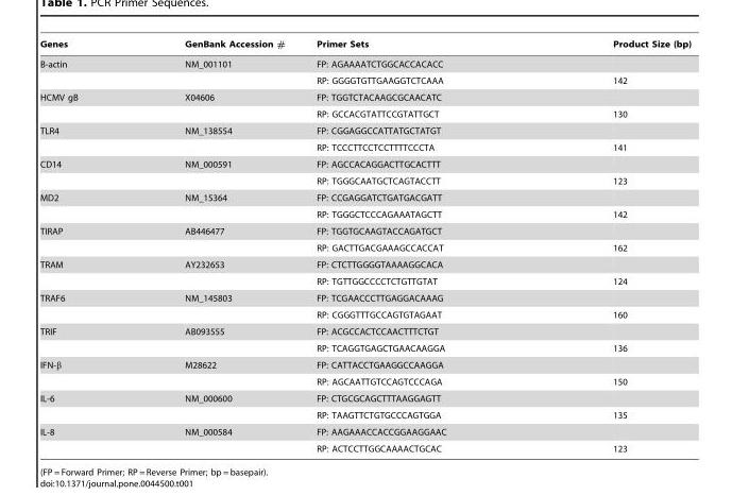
<table><thead><tr><td>Genes</td><td>GenBank Accession #</td><td>Primer Sets</td><td>Product Size (bp)</td></tr></thead><tbody><tr><td rowspan="2">B-actin</td><td>NM_001101</td><td>FP: AGAAAATCTGGCACCACACC</td><td></td></tr><tr><td></td><td>RP: GGGGTGTTGAAGGTCTCAAA</td><td>142</td></tr><tr><td rowspan="2">HCMV gB</td><td>X04606</td><td>FP: TGGTCTACAAGCGCAACATC</td><td></td></tr><tr><td></td><td>RP: GCCACGTATTCCGTATTGCT</td><td>130</td></tr><tr><td rowspan="2">TLR4</td><td>NM_138554</td><td>FP: CGGAGGCCATTATGCTATGT</td><td></td></tr><tr><td></td><td>RP: TCCCTTCCTCCTTTTCCCTA</td><td>141</td></tr><tr><td rowspan="2">CD14</td><td>NM_000591</td><td>FP: AGCCACAGGACTTGCACTTT</td><td></td></tr><tr><td></td><td>RP: TGGGCAATGCTCAGTACCTT</td><td>123</td></tr><tr><td rowspan="2">MD2</td><td>NM_15364</td><td>FP: CCGAGGATCTGATGACGATT</td><td></td></tr><tr><td></td><td>RP: TGGGCTCCCAGAAATAGCTT</td><td>142</td></tr><tr><td rowspan="2">TIRAP</td><td>AB446477</td><td>FP: TGGTGCAAGTACCAGATGCT</td><td></td></tr><tr><td></td><td>RP: GACTTGACGAAAGCCACCAT</td><td>162</td></tr><tr><td rowspan="2">TRAM</td><td>AY232653</td><td>FP: CTCTTGGGGTAAAAGGCACA</td><td></td></tr><tr><td></td><td>RP: TGTTGGCCCCTCTGTTGTAT</td><td>124</td></tr><tr><td rowspan="2">TRAF6</td><td>NM_145803</td><td>FP: TCGAACCCTTGAGGACAAAG</td><td></td></tr><tr><td></td><td>RP: CGGGTTTGCCAGTGTAGAAT</td><td>160</td></tr><tr><td rowspan="2">TRIF</td><td>AB093555</td><td>FP: ACGCCACTCCAACTTTCTGT</td><td></td></tr><tr><td></td><td>RP: TCAGGTGAGCTGAACAAGGA</td><td>136</td></tr><tr><td rowspan="2">IFN-β</td><td>M28622</td><td>FP: CATTACCTGAAGGCCAAGGA</td><td></td></tr><tr><td></td><td>RP: AGCAATTGTCCAGTCCCAGA</td><td>150</td></tr><tr><td rowspan="2">IL-6</td><td>NM_000600</td><td>FP: CTGCGCAGCTTTAAGGAGTT</td><td></td></tr><tr><td></td><td>RP: TAAGTTCTGTGCCCAGTGGA</td><td>135</td></tr><tr><td rowspan="2">IL-8</td><td>NM_000584</td><td>FP: AAGAAACCACCGGAAGGAAC</td><td></td></tr><tr><td></td><td>RP: ACTCCTTGGCAAAACTGCAC</td><td>123</td></tr></tbody></table>